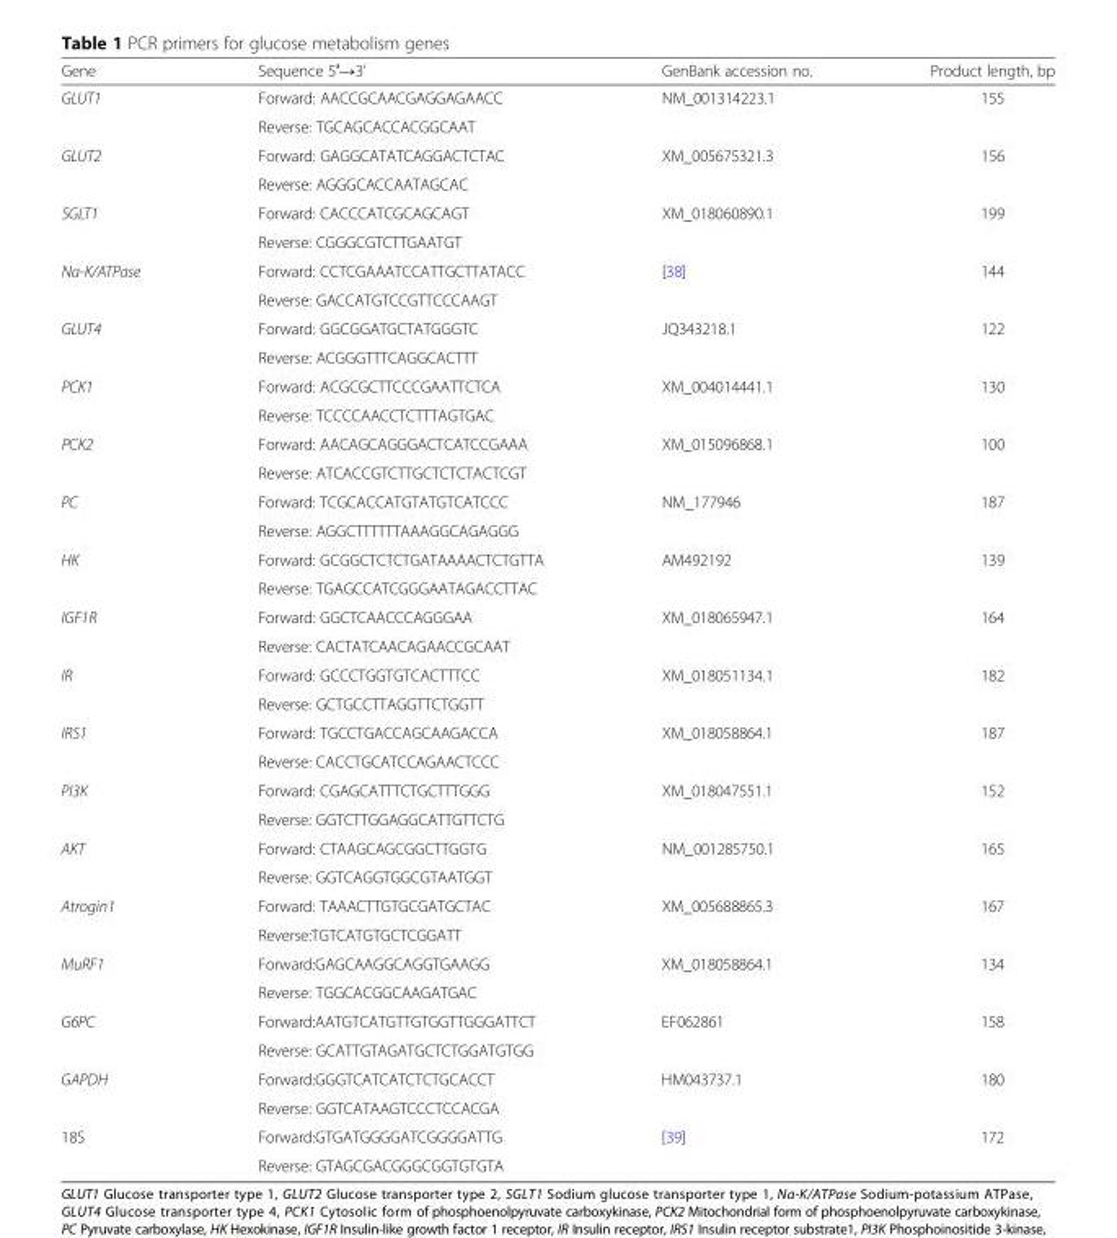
<table><thead><tr><td>Gene</td><td>Sequence 5′→3’</td><td>GenBank accession no.</td><td>Product length, bp</td></tr></thead><tbody><tr><td rowspan="2">GLUT1</td><td>Forward: AACCGCAACGAGGAGAACC</td><td>NM_001314223.1</td><td>155</td></tr><tr><td>Reverse: TGCAGCACCACGGCAAT</td><td></td><td></td></tr><tr><td rowspan="2">GLUT2</td><td>Forward: GAGGCATATCAGGACTCTAC</td><td>XM_005675321.3</td><td>156</td></tr><tr><td>Reverse: AGGGCACCAATAGCAC</td><td></td><td></td></tr><tr><td rowspan="2">SGLT1</td><td>Forward: CACCCATCGCAGCAGT</td><td>XM_018060890.1</td><td>199</td></tr><tr><td>Reverse: CGGGCGTCTTGAATGT</td><td></td><td></td></tr><tr><td rowspan="2">Na-K/ATPase</td><td>Forward: CCTCGAAATCCATTGCTTATACC</td><td>[38]</td><td>144</td></tr><tr><td>Reverse: GACCATGTCCGTTCCCAAGT</td><td></td><td></td></tr><tr><td rowspan="2">GLUT4</td><td>Forward: GGCGGATGCTATGGGTC</td><td>JQ343218.1</td><td>122</td></tr><tr><td>Reverse: ACGGGTTTCAGGCACTTT</td><td></td><td></td></tr><tr><td rowspan="2">PCK1</td><td>Forward: ACGCGCTTCCCGAATTCTCA</td><td>XM_004014441.1</td><td>130</td></tr><tr><td>Reverse: TCCCCAACCTCTTTAGTGAC</td><td></td><td></td></tr><tr><td rowspan="2">PCK2</td><td>Forward: AACAGCAGGGACTCATCCGAAA</td><td>XM_015096868.1</td><td>100</td></tr><tr><td>Reverse: ATCACCGTCTTGCTCTCTACTCGT</td><td></td><td></td></tr><tr><td rowspan="2">PC</td><td>Forward: TCGCACCATGTATGTCATCCC</td><td>NM_177946</td><td>187</td></tr><tr><td>Reverse: AGGCTTTTTTAAAGGCAGAGGG</td><td></td><td></td></tr><tr><td rowspan="2">HK</td><td>Forward: GCGGCTCTCTGATAAAACTCTGTTA</td><td>AM492192</td><td>139</td></tr><tr><td>Reverse: TGAGCCATCGGGAATAGACCTTAC</td><td></td><td></td></tr><tr><td rowspan="2">IGF1R</td><td>Forward: GGCTCAACCCAGGGAA</td><td>XM_018065947.1</td><td>164</td></tr><tr><td>Reverse: CACTATCAACAGAACCGCAAT</td><td></td><td></td></tr><tr><td rowspan="2">IR</td><td>Forward: GCCCTGGTGTCACTTTCC</td><td>XM_018051134.1</td><td>182</td></tr><tr><td>Reverse: GCTGCCTTAGGTTCTGGTT</td><td></td><td></td></tr><tr><td rowspan="2">IRS1</td><td>Forward: TGCCTGACCAGCAAGACCA</td><td>XM_018058864.1</td><td>187</td></tr><tr><td>Reverse: CACCTGCATCCAGAACTCCC</td><td></td><td></td></tr><tr><td rowspan="2">PI3K</td><td>Forward: CGAGCATTTCTGCTTTGGG</td><td>XM_018047551.1</td><td>152</td></tr><tr><td>Reverse: GGTCTTGGAGGCATTGTTCTG</td><td></td><td></td></tr><tr><td rowspan="2">AKT</td><td>Forward: CTAAGCAGCGGCTTGGTG</td><td>NM_001285750.1</td><td>165</td></tr><tr><td>Reverse: GGTCAGGTGGCGTAATGGT</td><td></td><td></td></tr><tr><td rowspan="2">Atrogin1</td><td>Forward: TAAACTTGTGCGATGCTAC</td><td>XM_005688865.3</td><td>167</td></tr><tr><td>Reverse:TGTCATGTGCTCGGATT</td><td></td><td></td></tr><tr><td rowspan="2">MuRF1</td><td>Forward:GAGCAAGGCAGGTGAAGG</td><td>XM_018058864.1</td><td>134</td></tr><tr><td>Reverse: TGGCACGGCAAGATGAC</td><td></td><td></td></tr><tr><td rowspan="2">G6PC</td><td>Forward:AATGTCATGTTGTGGTTGGGATTCT</td><td>EF062861</td><td>158</td></tr><tr><td>Reverse: GCATTGTAGATGCTCTGGATGTGG</td><td></td><td></td></tr><tr><td rowspan="2">GAPDH</td><td>Forward:GGGTCATCATCTCTGCACCT</td><td>HM043737.1</td><td>180</td></tr><tr><td>Reverse: GGTCATAAGTCCCTCCACGA</td><td></td><td></td></tr><tr><td rowspan="2">18S</td><td>Forward:GTGATGGGGATCGGGGATTG</td><td>[39]</td><td>172</td></tr><tr><td>Reverse: GTAGCGACGGGCGGTGTGTA</td><td></td><td></td></tr></tbody></table>